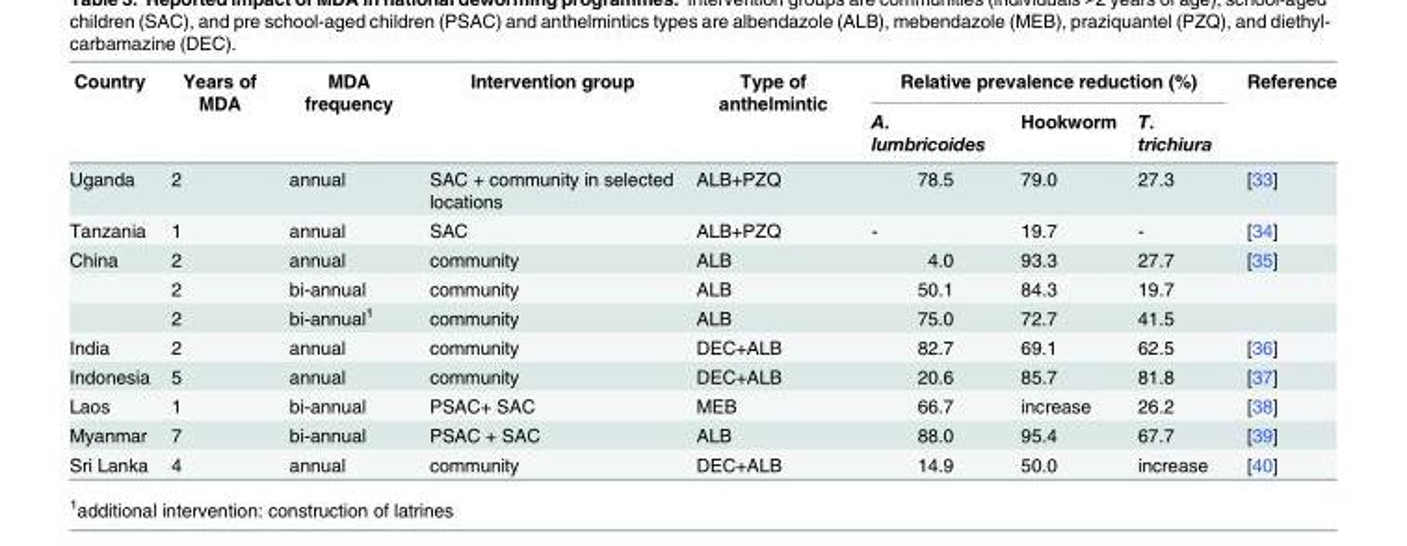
<table><thead><tr><td rowspan="2">Country</td><td rowspan="2">Years of MDA</td><td rowspan="2">MDA frequency</td><td rowspan="2">Intervention group</td><td rowspan="2">Type of anthelmintic</td><td colspan="3">Relative prevalence reduction (%)</td><td rowspan="2">Reference</td></tr><tr><td>A. lumbricoides</td><td>Hookworm</td><td>T. trichiura</td></tr></thead><tbody><tr><td>Uganda</td><td>2</td><td>annual</td><td>SAC + community in selected locations</td><td>ALB+PZQ</td><td>78.5</td><td>79.0</td><td>27.3</td><td>[33]</td></tr><tr><td>Tanzania</td><td>1</td><td>annual</td><td>SAC</td><td>ALB+PZQ</td><td>-</td><td>19.7</td><td>-</td><td>[34]</td></tr><tr><td rowspan="3">China</td><td>2</td><td>annual</td><td>community</td><td>ALB</td><td>4.0</td><td>93.3</td><td>27.7</td><td>[35]</td></tr><tr><td>2</td><td>bi-annual</td><td>community</td><td>ALB</td><td>50.1</td><td>84.3</td><td>19.7</td><td></td></tr><tr><td>2</td><td>bi-annual<sup>1</sup></td><td>community</td><td>ALB</td><td>75.0</td><td>72.7</td><td>41.5</td><td></td></tr><tr><td>India</td><td>2</td><td>annual</td><td>community</td><td>DEC+ALB</td><td>82.7</td><td>69.1</td><td>62.5</td><td>[36]</td></tr><tr><td>Indonesia</td><td>5</td><td>annual</td><td>community</td><td>DEC+ALB</td><td>20.6</td><td>85.7</td><td>81.8</td><td>[37]</td></tr><tr><td>Laos</td><td>1</td><td>bi-annual</td><td>PSAC+ SAC</td><td>MEB</td><td>66.7</td><td>increase</td><td>26.2</td><td>[38]</td></tr><tr><td>Myanmar</td><td>7</td><td>bi-annual</td><td>PSAC + SAC</td><td>ALB</td><td>88.0</td><td>95.4</td><td>67.7</td><td>[39]</td></tr><tr><td>Sri Lanka</td><td>4</td><td>annual</td><td>community</td><td>DEC+ALB</td><td>14.9</td><td>50.0</td><td>increase</td><td>[40]</td></tr></tbody></table>